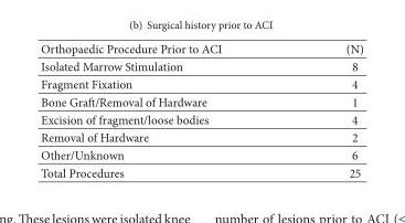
<table><thead><tr><td>Orthopaedic Procedure Prior to ACI</td><td>(N)</td></tr></thead><tbody><tr><td>Isolated Marrow Stimulation</td><td>8</td></tr><tr><td>Fragment Fixation</td><td>4</td></tr><tr><td>Bone Graft/Removal of Hardware</td><td>1</td></tr><tr><td>Excision of fragment/loose bodies</td><td>4</td></tr><tr><td>Removal of Hardware</td><td>2</td></tr><tr><td>Other/Unknown</td><td>6</td></tr><tr><td>Total Procedures</td><td>25</td></tr></tbody></table>